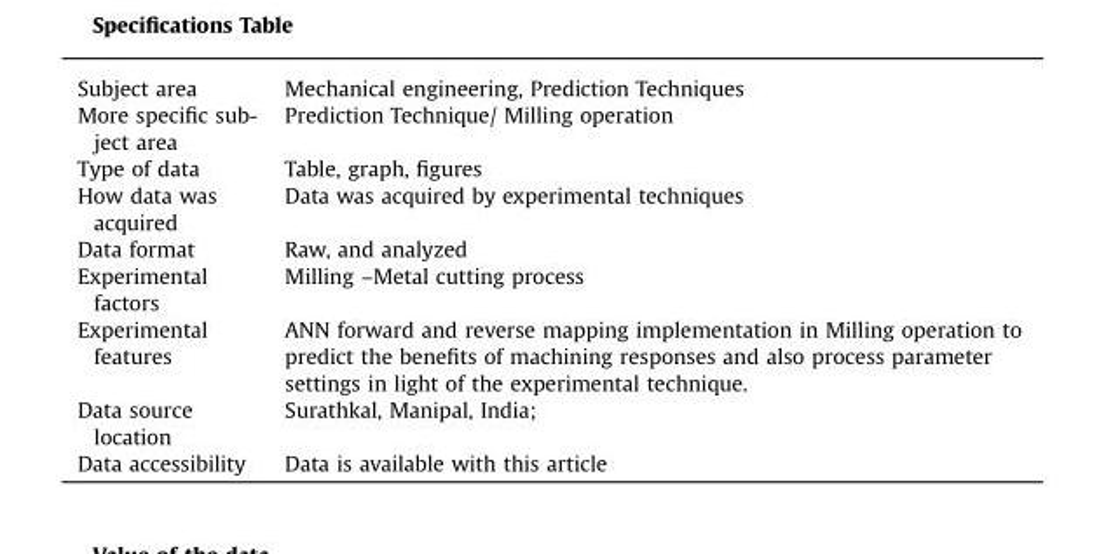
<table><tbody><tr><td>Subject area</td><td>Mechanical engineering, Prediction Techniques</td></tr><tr><td>More specific sub- ject area</td><td>Prediction Technique/ Milling operation</td></tr><tr><td>Type of data</td><td>Table, graph, figures</td></tr><tr><td>How data was acquired</td><td>Data was acquired by experimental techniques</td></tr><tr><td>Data format</td><td>Raw, and analyzed</td></tr><tr><td>Experimental factors</td><td>Milling –Metal cutting process</td></tr><tr><td>Experimental features</td><td>ANN forward and reverse mapping implementation in Milling operation to predict the benefits of machining responses and also process parameter settings in light of the experimental technique.</td></tr><tr><td>Data source location</td><td>Surathkal, Manipal, India;</td></tr><tr><td>Data accessibility</td><td>Data is available with this article</td></tr></tbody></table>